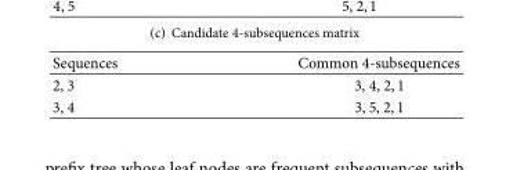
<table><tbody><tr><td>Sequences</td><td>Common 4-subsequences</td></tr><tr><td>2, 3</td><td>3, 4, 2, 1</td></tr><tr><td>3, 4</td><td>3, 5, 2, 1</td></tr></tbody></table>